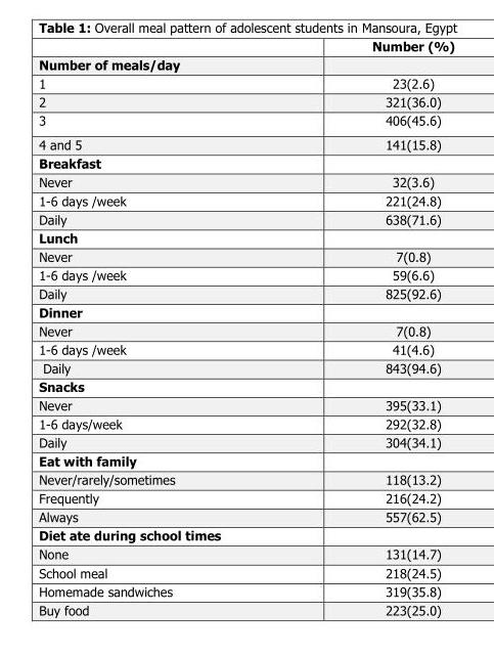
<table><thead><tr><td></td><td>Number (%)</td></tr></thead><tbody><tr><td colspan="2">Number of meals/day</td></tr><tr><td>1</td><td>23(2.6)</td></tr><tr><td>2</td><td>321(36.0)</td></tr><tr><td>3</td><td>406(45.6)</td></tr><tr><td>4 and 5</td><td>141(15.8)</td></tr><tr><td colspan="2">Breakfast</td></tr><tr><td>Never</td><td>32(3.6)</td></tr><tr><td>1-6 days /week</td><td>221(24.8)</td></tr><tr><td>Daily</td><td>638(71.6)</td></tr><tr><td colspan="2">Lunch</td></tr><tr><td>Never</td><td>7(0.8)</td></tr><tr><td>1-6 days /week</td><td>59(6.6)</td></tr><tr><td>Daily</td><td>825(92.6)</td></tr><tr><td colspan="2">Dinner</td></tr><tr><td>Never</td><td>7(0.8)</td></tr><tr><td>1-6 days /week</td><td>41(4.6)</td></tr><tr><td>Daily</td><td>843(94.6)</td></tr><tr><td colspan="2">Snacks</td></tr><tr><td>Never</td><td>395(33.1)</td></tr><tr><td>1-6 days/week</td><td>292(32.8)</td></tr><tr><td>Daily</td><td>304(34.1)</td></tr><tr><td colspan="2">Eat with family</td></tr><tr><td>Never/rarely/sometimes</td><td>118(13.2)</td></tr><tr><td>Frequently</td><td>216(24.2)</td></tr><tr><td>Always</td><td>557(62.5)</td></tr><tr><td colspan="2">Diet ate during school times</td></tr><tr><td>None</td><td>131(14.7)</td></tr><tr><td>School meal</td><td>218(24.5)</td></tr><tr><td>Homemade sandwiches</td><td>319(35.8)</td></tr><tr><td>Buy food</td><td>223(25.0)</td></tr></tbody></table>